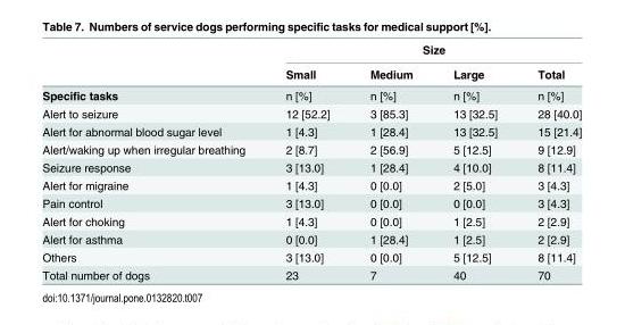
<table><thead><tr><td rowspan="2"></td><td colspan="4">Size</td></tr><tr><td>Small</td><td>Medium</td><td>Large</td><td>Total</td></tr></thead><tbody><tr><td>Specific tasks</td><td>n [%]</td><td>n [%]</td><td>n [%]</td><td>n [%]</td></tr><tr><td>Alert to seizure</td><td>12 [52.2]</td><td>3 [85.3]</td><td>13 [32.5]</td><td>28 [40.0]</td></tr><tr><td>Alert for abnormal blood sugar level</td><td>1 [4.3]</td><td>1 [28.4]</td><td>13 [32.5]</td><td>15 [21.4]</td></tr><tr><td>Alert/waking up when irregular breathing</td><td>2 [8.7]</td><td>2 [56.9]</td><td>5 [12.5]</td><td>9 [12.9]</td></tr><tr><td>Seizure response</td><td>3 [13.0]</td><td>1 [28.4]</td><td>4 [10.0]</td><td>8 [11.4]</td></tr><tr><td>Alert for migraine</td><td>1 [4.3]</td><td>0 [0.0]</td><td>2 [5.0]</td><td>3 [4.3]</td></tr><tr><td>Pain control</td><td>3 [13.0]</td><td>0 [0.0]</td><td>0 [0.0]</td><td>3 [4.3]</td></tr><tr><td>Alert for choking</td><td>1 [4.3]</td><td>0 [0.0]</td><td>1 [2.5]</td><td>2 [2.9]</td></tr><tr><td>Alert for asthma</td><td>0 [0.0]</td><td>1 [28.4]</td><td>1 [2.5]</td><td>2 [2.9]</td></tr><tr><td>Others</td><td>3 [13.0]</td><td>0 [0.0]</td><td>5 [12.5]</td><td>8 [11.4]</td></tr><tr><td>Total number of dogs</td><td>23</td><td>7</td><td>40</td><td>70</td></tr></tbody></table>